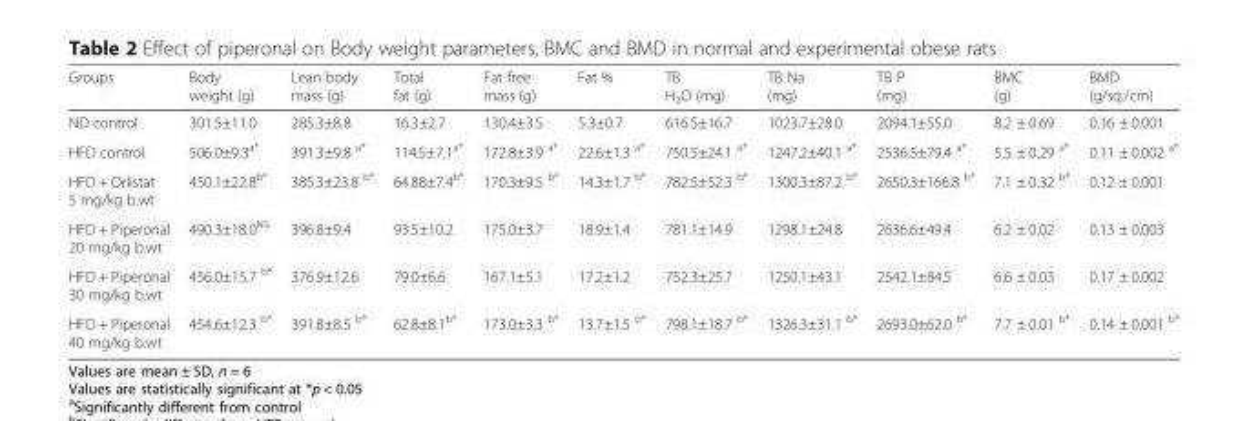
<table><thead><tr><td>Groups</td><td>Body weight (g)</td><td>Lean body mass (g)</td><td>Total fat (g)</td><td>Fat free mass (g)</td><td>Fat %</td><td>TB H<sub>2</sub>O (mg)</td><td>TB Na (mg)</td><td>TB P (mg)</td><td>BMC (g)</td><td>BMD (g/sq./cm)</td></tr></thead><tbody><tr><td>ND control</td><td>301.5±11.0</td><td>285.3±8.8</td><td>16.3±2.7</td><td>130.4±3.5</td><td>5.3±0.7</td><td>616.5±16.7</td><td>1023.7±28.0</td><td>2094.1±55.0</td><td>8.2 ± 0.69</td><td>0.16 ± 0.001</td></tr><tr><td>HFD control</td><td>506.0±9.3<sup>a*</sup></td><td>391.3±9.8 <sup>a*</sup></td><td>114.5±7.1<sup>a*</sup></td><td>172.8±3.9 <sup>a*</sup></td><td>22.6±1.3 <sup>a*</sup></td><td>750.5±24.1 <sup>a*</sup></td><td>1247.2±40.1 <sup>a*</sup></td><td>2536.5±79.4 <sup>a*</sup></td><td>5.5 ± 0.29 <sup>a*</sup></td><td>0.11 ± 0.002 <sup>a*</sup></td></tr><tr><td>HFD + Orlistat 5 mg/kg b.wt</td><td>450.1±22.8<sup>b*</sup></td><td>385.3±23.8 <sup>b*</sup></td><td>64.88±7.4<sup>b*</sup></td><td>170.3±9.5 <sup>b*</sup></td><td>14.3±1.7 <sup>b*</sup></td><td>782.5±52.3 <sup>b*</sup></td><td>1300.3±87.2 <sup>b*</sup></td><td>2650.3±166.8 <sup>b*</sup></td><td>7.1 ± 0.32 <sup>b*</sup></td><td>0.12 ± 0.001</td></tr><tr><td>HFD + Piperonal 20 mg/kg b.wt</td><td>490.3±18.0<sup>NS</sup></td><td>396.8±9.4</td><td>93.5±10.2</td><td>175.0±3.7</td><td>18.9±1.4</td><td>781.1±14.9</td><td>1298.1±24.8</td><td>2636.6±49.4</td><td>6.2 ± 0.02</td><td>0.13 ± 0.003</td></tr><tr><td>HFD + Piperonal 30 mg/kg b.wt</td><td>456.0±15.7 <sup>b*</sup></td><td>376.9±12.6</td><td>79.0±6.6</td><td>167.1±5.1</td><td>17.2±1.2</td><td>752.3±25.7</td><td>1250.1±43.1</td><td>2542.1±84.5</td><td>6.6 ± 0.03</td><td>0.17 ± 0.002</td></tr><tr><td>HFD + Piperonal 40 mg/kg b.wt</td><td>454.6±12.3 <sup>b*</sup></td><td>391.8±8.5 <sup>b*</sup></td><td>62.8±8.1<sup>b*</sup></td><td>173.0±3.3 <sup>b*</sup></td><td>13.7±1.5 <sup>b*</sup></td><td>798.1±18.7 <sup>b*</sup></td><td>1326.3±31.1 <sup>b*</sup></td><td>2693.0±62.0 <sup>b*</sup></td><td>7.7 ± 0.01 <sup>b*</sup></td><td>0.14 ± 0.001 <sup>b*</sup></td></tr></tbody></table>